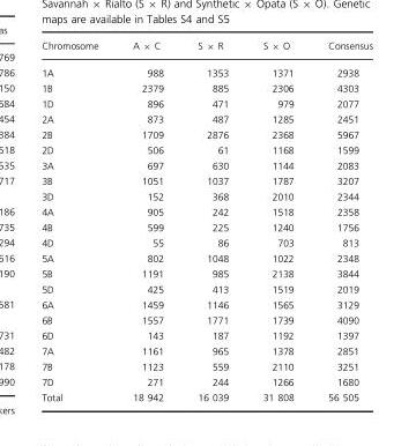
<table><thead><tr><td>Chromosome</td><td>A × C</td><td>S × R</td><td>S × O</td><td>Consensus</td></tr></thead><tbody><tr><td>1A</td><td>988</td><td>1353</td><td>1371</td><td>2938</td></tr><tr><td>1B</td><td>2379</td><td>885</td><td>2306</td><td>4303</td></tr><tr><td>1D</td><td>896</td><td>471</td><td>979</td><td>2077</td></tr><tr><td>2A</td><td>873</td><td>487</td><td>1285</td><td>2451</td></tr><tr><td>2B</td><td>1709</td><td>2876</td><td>2368</td><td>5967</td></tr><tr><td>2D</td><td>506</td><td>61</td><td>1168</td><td>1599</td></tr><tr><td>3A</td><td>697</td><td>630</td><td>1144</td><td>2083</td></tr><tr><td>3B</td><td>1051</td><td>1037</td><td>1787</td><td>3207</td></tr><tr><td>3D</td><td>152</td><td>368</td><td>2010</td><td>2344</td></tr><tr><td>4A</td><td>905</td><td>242</td><td>1518</td><td>2358</td></tr><tr><td>4B</td><td>599</td><td>225</td><td>1240</td><td>1756</td></tr><tr><td>4D</td><td>55</td><td>86</td><td>703</td><td>813</td></tr><tr><td>5A</td><td>802</td><td>1048</td><td>1022</td><td>2348</td></tr><tr><td>5B</td><td>1191</td><td>985</td><td>2138</td><td>3844</td></tr><tr><td>5D</td><td>425</td><td>413</td><td>1519</td><td>2019</td></tr><tr><td>6A</td><td>1459</td><td>1146</td><td>1565</td><td>3129</td></tr><tr><td>6B</td><td>1557</td><td>1771</td><td>1739</td><td>4090</td></tr><tr><td>6D</td><td>143</td><td>187</td><td>1192</td><td>1397</td></tr><tr><td>7A</td><td>1161</td><td>965</td><td>1378</td><td>2851</td></tr><tr><td>7B</td><td>1123</td><td>559</td><td>2110</td><td>3251</td></tr><tr><td>7D</td><td>271</td><td>244</td><td>1266</td><td>1680</td></tr><tr><td>Total</td><td>18 942</td><td>16 039</td><td>31 808</td><td>56 505</td></tr></tbody></table>